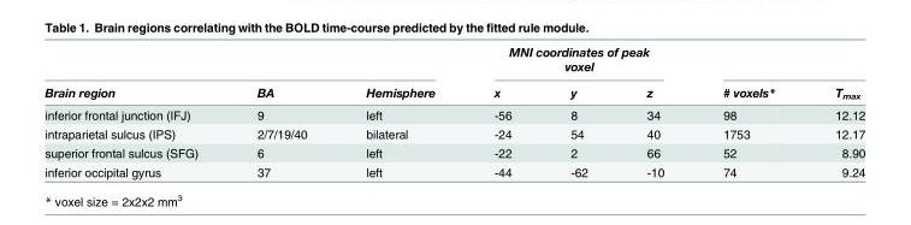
<table><thead><tr><td rowspan="2">Brain region</td><td rowspan="2">BA</td><td rowspan="2">Hemisphere</td><td colspan="3">MNI coordinates of peak voxel</td><td rowspan="2"># voxels*</td><td rowspan="2">T<sub>max</sub></td></tr><tr><td>x</td><td>y</td><td>z</td></tr></thead><tbody><tr><td>inferior frontal junction (IFJ)</td><td>9</td><td>left</td><td>-56</td><td>8</td><td>34</td><td>98</td><td>12.12</td></tr><tr><td>intraparietal sulcus (IPS)</td><td>2/7/19/40</td><td>bilateral</td><td>-24</td><td>54</td><td>40</td><td>1753</td><td>12.17</td></tr><tr><td>superior frontal sulcus (SFG)</td><td>6</td><td>left</td><td>-22</td><td>2</td><td>66</td><td>52</td><td>8.90</td></tr><tr><td>inferior occipital gyrus</td><td>37</td><td>left</td><td>-44</td><td>-62</td><td>-10</td><td>74</td><td>9.24</td></tr></tbody></table>